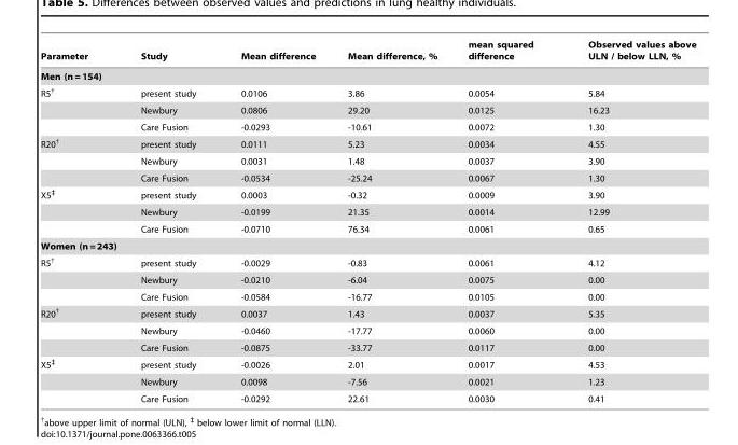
<table><thead><tr><td>Parameter</td><td>Study</td><td>Mean difference</td><td>Mean difference, %</td><td>mean squared difference</td><td>Observed values above ULN / below LLN, %</td></tr></thead><tbody><tr><td colspan="6">Men (n = 154)</td></tr><tr><td rowspan="3">R5†</td><td>present study</td><td>0.0106</td><td>3.86</td><td>0.0054</td><td>5.84</td></tr><tr><td>Newbury</td><td>0.0806</td><td>29.20</td><td>0.0125</td><td>16.23</td></tr><tr><td>Care Fusion</td><td>-0.0293</td><td>-10.61</td><td>0.0072</td><td>1.30</td></tr><tr><td rowspan="3">R20†</td><td>present study</td><td>0.0111</td><td>5.23</td><td>0.0034</td><td>4.55</td></tr><tr><td>Newbury</td><td>0.0031</td><td>1.48</td><td>0.0037</td><td>3.90</td></tr><tr><td>Care Fusion</td><td>-0.0534</td><td>-25.24</td><td>0.0067</td><td>1.30</td></tr><tr><td rowspan="3">X5<sup>‡</sup></td><td>present study</td><td>0.0003</td><td>-0.32</td><td>0.0009</td><td>3.90</td></tr><tr><td>Newbury</td><td>-0.0199</td><td>21.35</td><td>0.0014</td><td>12.99</td></tr><tr><td>Care Fusion</td><td>-0.0710</td><td>76.34</td><td>0.0061</td><td>0.65</td></tr><tr><td colspan="6">Women (n = 243)</td></tr><tr><td rowspan="3">R5†</td><td>present study</td><td>-0.0029</td><td>-0.83</td><td>0.0061</td><td>4.12</td></tr><tr><td>Newbury</td><td>-0.0210</td><td>-6.04</td><td>0.0075</td><td>0.00</td></tr><tr><td>Care Fusion</td><td>-0.0584</td><td>-16.77</td><td>0.0105</td><td>0.00</td></tr><tr><td rowspan="3">R20†</td><td>present study</td><td>0.0037</td><td>1.43</td><td>0.0037</td><td>5.35</td></tr><tr><td>Newbury</td><td>-0.0460</td><td>-17.77</td><td>0.0060</td><td>0.00</td></tr><tr><td>Care Fusion</td><td>-0.0875</td><td>-33.77</td><td>0.0117</td><td>0.00</td></tr><tr><td rowspan="3">X5<sup>‡</sup></td><td>present study</td><td>-0.0026</td><td>2.01</td><td>0.0017</td><td>4.53</td></tr><tr><td>Newbury</td><td>0.0098</td><td>-7.56</td><td>0.0021</td><td>1.23</td></tr><tr><td>Care Fusion</td><td>-0.0292</td><td>22.61</td><td>0.0030</td><td>0.41</td></tr></tbody></table>